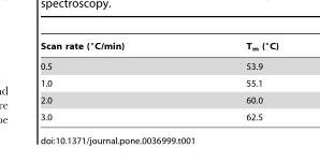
<table><thead><tr><td>Scan rate (°C/min)</td><td>T<sub>m</sub> (°C)</td></tr></thead><tbody><tr><td>0.5</td><td>53.9</td></tr><tr><td>1.0</td><td>55.1</td></tr><tr><td>2.0</td><td>60.0</td></tr><tr><td>3.0</td><td>62.5</td></tr></tbody></table>